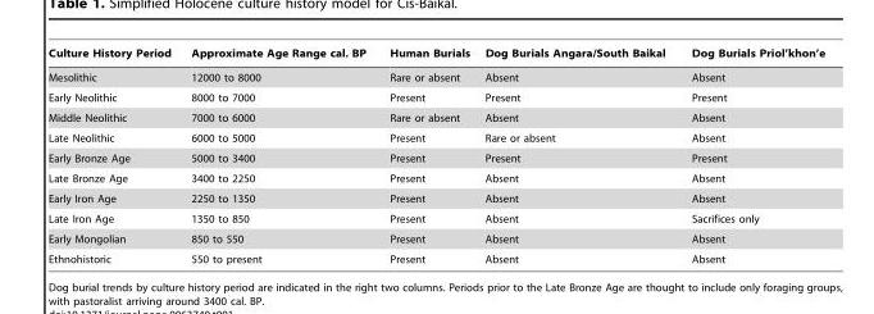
<table><thead><tr><td>Culture History Period</td><td>Approximate Age Range cal. BP</td><td>Human Burials</td><td>Dog Burials Angara/South Baikal</td><td>Dog Burials Priol’khon’e</td></tr></thead><tbody><tr><td>Mesolithic</td><td>12000 to 8000</td><td>Rare or absent</td><td>Absent</td><td>Absent</td></tr><tr><td>Early Neolithic</td><td>8000 to 7000</td><td>Present</td><td>Present</td><td>Present</td></tr><tr><td>Middle Neolithic</td><td>7000 to 6000</td><td>Rare or absent</td><td>Absent</td><td>Absent</td></tr><tr><td>Late Neolithic</td><td>6000 to 5000</td><td>Present</td><td>Rare or absent</td><td>Absent</td></tr><tr><td>Early Bronze Age</td><td>5000 to 3400</td><td>Present</td><td>Present</td><td>Present</td></tr><tr><td>Late Bronze Age</td><td>3400 to 2250</td><td>Present</td><td>Absent</td><td>Absent</td></tr><tr><td>Early Iron Age</td><td>2250 to 1350</td><td>Present</td><td>Absent</td><td>Absent</td></tr><tr><td>Late Iron Age</td><td>1350 to 850</td><td>Present</td><td>Absent</td><td>Sacrifices only</td></tr><tr><td>Early Mongolian</td><td>850 to 550</td><td>Present</td><td>Absent</td><td>Absent</td></tr><tr><td>Ethnohistoric</td><td>550 to present</td><td>Present</td><td>Absent</td><td>Absent</td></tr></tbody></table>